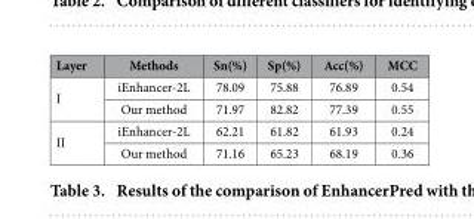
<table><thead><tr><td>Layer</td><td>Methods</td><td>Sn(%)</td><td>Sp(%)</td><td>Acc(%)</td><td>MCC</td></tr></thead><tbody><tr><td rowspan="2">I</td><td>iEnhancer-2L</td><td>78.09</td><td>75.88</td><td>76.89</td><td>0.54</td></tr><tr><td>Our method</td><td>71.97</td><td>82.82</td><td>77.39</td><td>0.55</td></tr><tr><td rowspan="2">II</td><td>iEnhancer-2L</td><td>62.21</td><td>61.82</td><td>61.93</td><td>0.24</td></tr><tr><td>Our method</td><td>71.16</td><td>65.23</td><td>68.19</td><td>0.36</td></tr></tbody></table>